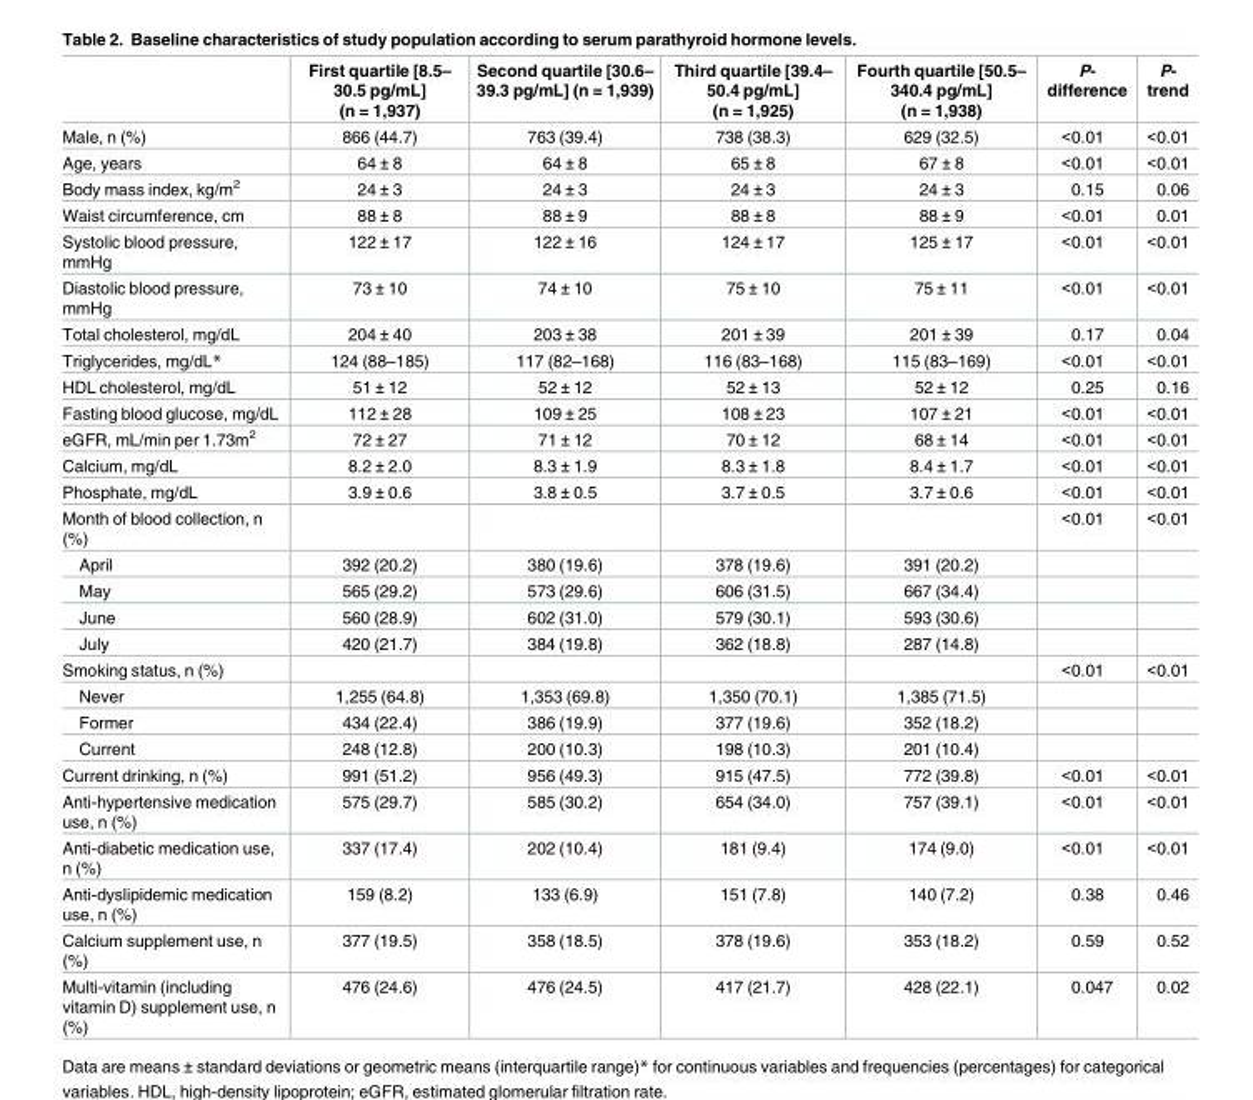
<table><thead><tr><td></td><td>First quartile [8.5– 30.5 pg/mL] (n = 1,937)</td><td>Second quartile [30.6– 39.3 pg/mL] (n = 1,939)</td><td>Third quartile [39.4– 50.4 pg/mL] (n = 1,925)</td><td>Fourth quartile [50.5– 340.4 pg/mL] (n = 1,938)</td><td>P- difference</td><td>P- trend</td></tr></thead><tbody><tr><td>Male, n (%)</td><td>866 (44.7)</td><td>763 (39.4)</td><td>738 (38.3)</td><td>629 (32.5)</td><td>&lt;0.01</td><td>&lt;0.01</td></tr><tr><td>Age, years</td><td>64 ± 8</td><td>64 ± 8</td><td>65 ± 8</td><td>67 ± 8</td><td>&lt;0.01</td><td>&lt;0.01</td></tr><tr><td>Body mass index, kg/m<sup>2</sup></td><td>24 ± 3</td><td>24 ± 3</td><td>24 ± 3</td><td>24 ± 3</td><td>0.15</td><td>0.06</td></tr><tr><td>Waist circumference, cm</td><td>88 ± 8</td><td>88 ± 9</td><td>88 ± 8</td><td>88 ± 9</td><td>&lt;0.01</td><td>0.01</td></tr><tr><td>Systolic blood pressure, mmHg</td><td>122 ± 17</td><td>122 ± 16</td><td>124 ± 17</td><td>125 ± 17</td><td>&lt;0.01</td><td>&lt;0.01</td></tr><tr><td>Diastolic blood pressure, mmHg</td><td>73 ± 10</td><td>74 ± 10</td><td>75 ± 10</td><td>75 ± 11</td><td>&lt;0.01</td><td>&lt;0.01</td></tr><tr><td>Total cholesterol, mg/dL</td><td>204 ± 40</td><td>203 ± 38</td><td>201 ± 39</td><td>201 ± 39</td><td>0.17</td><td>0.04</td></tr><tr><td>Triglycerides, mg/dL*</td><td>124 (88–185)</td><td>117 (82–168)</td><td>116 (83–168)</td><td>115 (83–169)</td><td>&lt;0.01</td><td>&lt;0.01</td></tr><tr><td>HDL cholesterol, mg/dL</td><td>51 ± 12</td><td>52 ± 12</td><td>52 ± 13</td><td>52 ± 12</td><td>0.25</td><td>0.16</td></tr><tr><td>Fasting blood glucose, mg/dL</td><td>112 ± 28</td><td>109 ± 25</td><td>108 ± 23</td><td>107 ± 21</td><td>&lt;0.01</td><td>&lt;0.01</td></tr><tr><td>eGFR, mL/min per 1.73m<sup>2</sup></td><td>72 ± 27</td><td>71 ± 12</td><td>70 ± 12</td><td>68 ± 14</td><td>&lt;0.01</td><td>&lt;0.01</td></tr><tr><td>Calcium, mg/dL</td><td>8.2 ± 2.0</td><td>8.3 ± 1.9</td><td>8.3 ± 1.8</td><td>8.4 ± 1.7</td><td>&lt;0.01</td><td>&lt;0.01</td></tr><tr><td>Phosphate, mg/dL</td><td>3.9 ± 0.6</td><td>3.8 ± 0.5</td><td>3.7 ± 0.5</td><td>3.7 ± 0.6</td><td>&lt;0.01</td><td>&lt;0.01</td></tr><tr><td>Month of blood collection, n (%)</td><td></td><td></td><td></td><td></td><td>&lt;0.01</td><td>&lt;0.01</td></tr><tr><td>April</td><td>392 (20.2)</td><td>380 (19.6)</td><td>378 (19.6)</td><td>391 (20.2)</td><td></td><td></td></tr><tr><td>May</td><td>565 (29.2)</td><td>573 (29.6)</td><td>606 (31.5)</td><td>667 (34.4)</td><td></td><td></td></tr><tr><td>June</td><td>560 (28.9)</td><td>602 (31.0)</td><td>579 (30.1)</td><td>593 (30.6)</td><td></td><td></td></tr><tr><td>July</td><td>420 (21.7)</td><td>384 (19.8)</td><td>362 (18.8)</td><td>287 (14.8)</td><td></td><td></td></tr><tr><td>Smoking status, n (%)</td><td></td><td></td><td></td><td></td><td>&lt;0.01</td><td>&lt;0.01</td></tr><tr><td>Never</td><td>1,255 (64.8)</td><td>1,353 (69.8)</td><td>1,350 (70.1)</td><td>1,385 (71.5)</td><td></td><td></td></tr><tr><td>Former</td><td>434 (22.4)</td><td>386 (19.9)</td><td>377 (19.6)</td><td>352 (18.2)</td><td></td><td></td></tr><tr><td>Current</td><td>248 (12.8)</td><td>200 (10.3)</td><td>198 (10.3)</td><td>201 (10.4)</td><td></td><td></td></tr><tr><td>Current drinking, n (%)</td><td>991 (51.2)</td><td>956 (49.3)</td><td>915 (47.5)</td><td>772 (39.8)</td><td>&lt;0.01</td><td>&lt;0.01</td></tr><tr><td>Anti-hypertensive medication use, n (%)</td><td>575 (29.7)</td><td>585 (30.2)</td><td>654 (34.0)</td><td>757 (39.1)</td><td>&lt;0.01</td><td>&lt;0.01</td></tr><tr><td>Anti-diabetic medication use, n (%)</td><td>337 (17.4)</td><td>202 (10.4)</td><td>181 (9.4)</td><td>174 (9.0)</td><td>&lt;0.01</td><td>&lt;0.01</td></tr><tr><td>Anti-dyslipidemic medication use, n (%)</td><td>159 (8.2)</td><td>133 (6.9)</td><td>151 (7.8)</td><td>140 (7.2)</td><td>0.38</td><td>0.46</td></tr><tr><td>Calcium supplement use, n (%)</td><td>377 (19.5)</td><td>358 (18.5)</td><td>378 (19.6)</td><td>353 (18.2)</td><td>0.59</td><td>0.52</td></tr><tr><td>Multi-vitamin (including vitamin D) supplement use, n (%)</td><td>476 (24.6)</td><td>476 (24.5)</td><td>417 (21.7)</td><td>428 (22.1)</td><td>0.047</td><td>0.02</td></tr></tbody></table>